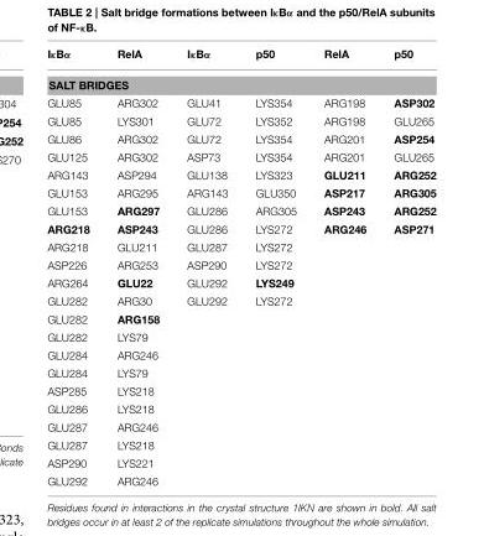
<table><thead><tr><td>IκBα</td><td>RelA</td><td>IκBα</td><td>p50</td><td>RelA</td><td>p50</td></tr></thead><tbody><tr><td colspan="6">SALT BRIDGES</td></tr><tr><td>GLU85</td><td>ARG302</td><td>GLU41</td><td>LYS354</td><td>ARG198</td><td>ASP302</td></tr><tr><td>GLU85</td><td>LYS301</td><td>GLU72</td><td>LYS352</td><td>ARG198</td><td>GLU265</td></tr><tr><td>GLU86</td><td>ARG302</td><td>GLU72</td><td>LYS354</td><td>ARG201</td><td>ASP254</td></tr><tr><td>GLU125</td><td>ARG302</td><td>ASP73</td><td>LYS354</td><td>ARG201</td><td>GLU265</td></tr><tr><td>ARG143</td><td>ASP294</td><td>GLU138</td><td>LYS323</td><td>GLU211</td><td>ARG252</td></tr><tr><td>GLU153</td><td>ARG295</td><td>ARG143</td><td>GLU350</td><td>ASP217</td><td>ARG305</td></tr><tr><td>GLU153</td><td>ARG297</td><td>GLU286</td><td>ARG305</td><td>ASP243</td><td>ARG252</td></tr><tr><td>ARG218</td><td>ASP243</td><td>GLU286</td><td>LYS272</td><td>ARG246</td><td>ASP271</td></tr><tr><td>ARG218</td><td>GLU211</td><td>GLU287</td><td>LYS272</td><td></td><td></td></tr><tr><td>ASP226</td><td>ARG253</td><td>ASP290</td><td>LYS272</td><td></td><td></td></tr><tr><td>ARG264</td><td>GLU22</td><td>GLU292</td><td>LYS249</td><td></td><td></td></tr><tr><td>GLU282</td><td>ARG30</td><td>GLU292</td><td>LYS272</td><td></td><td></td></tr><tr><td>GLU282</td><td>ARG158</td><td></td><td></td><td></td><td></td></tr><tr><td>GLU282</td><td>LYS79</td><td></td><td></td><td></td><td></td></tr><tr><td>GLU284</td><td>ARG246</td><td></td><td></td><td></td><td></td></tr><tr><td>GLU284</td><td>LYS79</td><td></td><td></td><td></td><td></td></tr><tr><td>ASP285</td><td>LYS218</td><td></td><td></td><td></td><td></td></tr><tr><td>GLU286</td><td>LYS218</td><td></td><td></td><td></td><td></td></tr><tr><td>GLU287</td><td>ARG246</td><td></td><td></td><td></td><td></td></tr><tr><td>GLU287</td><td>LYS218</td><td></td><td></td><td></td><td></td></tr><tr><td>ASP290</td><td>LYS221</td><td></td><td></td><td></td><td></td></tr><tr><td>GLU292</td><td>ARG246</td><td></td><td></td><td></td><td></td></tr></tbody></table>